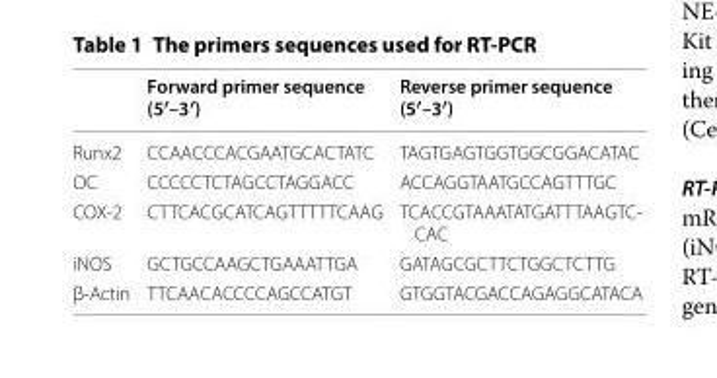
<table><thead><tr><td></td><td>Forward primer sequence (5′–3′)</td><td>Reverse primer sequence (5′–3′)</td></tr></thead><tbody><tr><td>Runx2</td><td>CCAACCCACGAATGCACTATC</td><td>TAGTGAGTGGTGGCGGACATAC</td></tr><tr><td>OC</td><td>CCCCCTCTAGCCTAGGACC</td><td>ACCAGGTAATGCCAGTTTGC</td></tr><tr><td>COX-2</td><td>CTTCACGCATCAGTTTTTCAAG</td><td>TCACCGTAAATATGATTTAAGTC- CAC</td></tr><tr><td>iNOS</td><td>GCTGCCAAGCTGAAATTGA</td><td>GATAGCGCTTCTGGCTCTTG</td></tr><tr><td>β-Actin</td><td>TTCAACACCCCAGCCATGT</td><td>GTGGTACGACCAGAGGCATACA</td></tr></tbody></table>